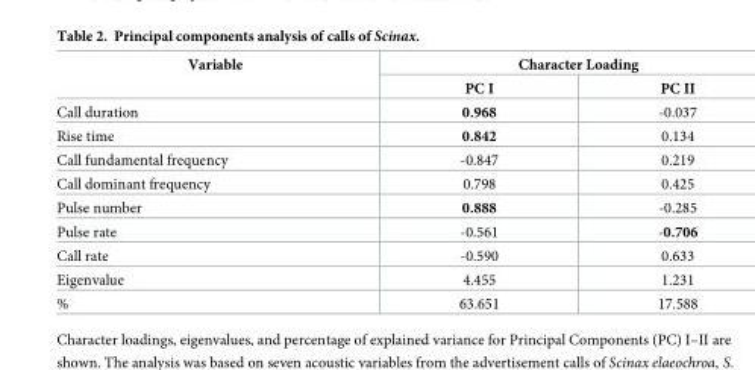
<table><thead><tr><td rowspan="2">Variable</td><td colspan="2">Character Loading</td></tr><tr><td>PC I</td><td>PC II</td></tr></thead><tbody><tr><td>Call duration</td><td>0.968</td><td>-0.037</td></tr><tr><td>Rise time</td><td>0.842</td><td>0.134</td></tr><tr><td>Call fundamental frequency</td><td>-0.847</td><td>0.219</td></tr><tr><td>Call dominant frequency</td><td>0.798</td><td>0.425</td></tr><tr><td>Pulse number</td><td>0.888</td><td>-0.285</td></tr><tr><td>Pulse rate</td><td>-0.561</td><td>-0.706</td></tr><tr><td>Call rate</td><td>-0.590</td><td>0.633</td></tr><tr><td>Eigenvalue</td><td>4.455</td><td>1.231</td></tr><tr><td>%</td><td>63.651</td><td>17.588</td></tr></tbody></table>